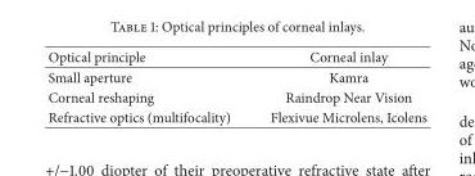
<table><thead><tr><td>Optical principle</td><td>Corneal inlay</td></tr></thead><tbody><tr><td>Small aperture</td><td>Kamra</td></tr><tr><td>Corneal reshaping</td><td>Raindrop Near Vision</td></tr><tr><td>Refractive optics (multifocality)</td><td>Flexivue Microlens, Icolens</td></tr></tbody></table>